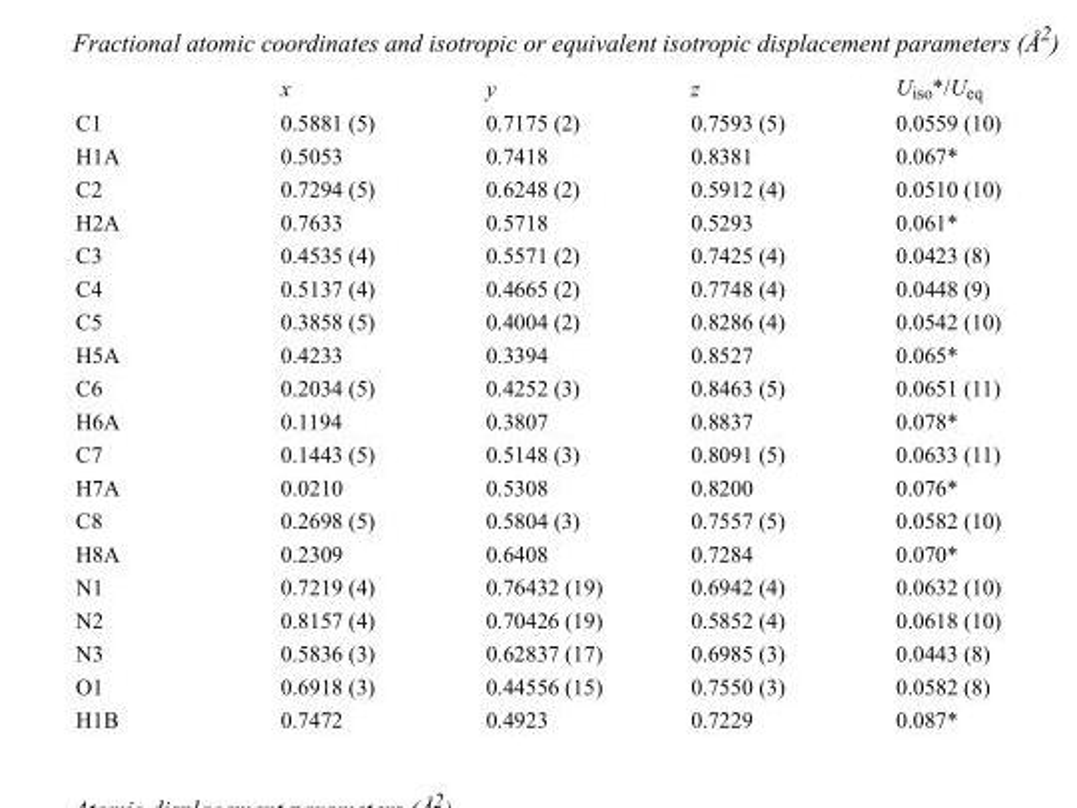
<table><thead><tr><td></td><td>x</td><td>y</td><td>z</td><td>U<sub>iso</sub>*/U<sub>eq</sub></td></tr></thead><tbody><tr><td>C1</td><td>0.5881 (5)</td><td>0.7175 (2)</td><td>0.7593 (5)</td><td>0.0559 (10)</td></tr><tr><td>H1A</td><td>0.5053</td><td>0.7418</td><td>0.8381</td><td>0.067*</td></tr><tr><td>C2</td><td>0.7294 (5)</td><td>0.6248 (2)</td><td>0.5912 (4)</td><td>0.0510 (10)</td></tr><tr><td>H2A</td><td>0.7633</td><td>0.5718</td><td>0.5293</td><td>0.061*</td></tr><tr><td>C3</td><td>0.4535 (4)</td><td>0.5571 (2)</td><td>0.7425 (4)</td><td>0.0423 (8)</td></tr><tr><td>C4</td><td>0.5137 (4)</td><td>0.4665 (2)</td><td>0.7748 (4)</td><td>0.0448 (9)</td></tr><tr><td>C5</td><td>0.3858 (5)</td><td>0.4004 (2)</td><td>0.8286 (4)</td><td>0.0542 (10)</td></tr><tr><td>H5A</td><td>0.4233</td><td>0.3394</td><td>0.8527</td><td>0.065*</td></tr><tr><td>C6</td><td>0.2034 (5)</td><td>0.4252 (3)</td><td>0.8463 (5)</td><td>0.0651 (11)</td></tr><tr><td>H6A</td><td>0.1194</td><td>0.3807</td><td>0.8837</td><td>0.078*</td></tr><tr><td>C7</td><td>0.1443 (5)</td><td>0.5148 (3)</td><td>0.8091 (5)</td><td>0.0633 (11)</td></tr><tr><td>H7A</td><td>0.0210</td><td>0.5308</td><td>0.8200</td><td>0.076*</td></tr><tr><td>C8</td><td>0.2698 (5)</td><td>0.5804 (3)</td><td>0.7557 (5)</td><td>0.0582 (10)</td></tr><tr><td>H8A</td><td>0.2309</td><td>0.6408</td><td>0.7284</td><td>0.070*</td></tr><tr><td>N1</td><td>0.7219 (4)</td><td>0.76432 (19)</td><td>0.6942 (4)</td><td>0.0632 (10)</td></tr><tr><td>N2</td><td>0.8157 (4)</td><td>0.70426 (19)</td><td>0.5852 (4)</td><td>0.0618 (10)</td></tr><tr><td>N3</td><td>0.5836 (3)</td><td>0.62837 (17)</td><td>0.6985 (3)</td><td>0.0443 (8)</td></tr><tr><td>O1</td><td>0.6918 (3)</td><td>0.44556 (15)</td><td>0.7550 (3)</td><td>0.0582 (8)</td></tr><tr><td>H1B</td><td>0.7472</td><td>0.4923</td><td>0.7229</td><td>0.087*</td></tr></tbody></table>